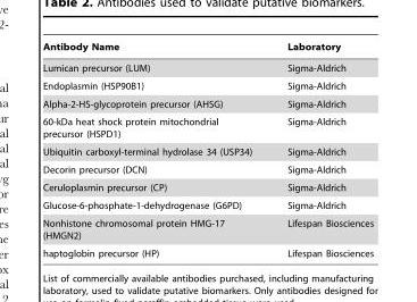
<table><thead><tr><td>Antibody Name</td><td>Laboratory</td></tr></thead><tbody><tr><td>Lumican precursor (LUM)</td><td>Sigma-Aldrich</td></tr><tr><td>Endoplasmin (HSP90B1)</td><td>Sigma-Aldrich</td></tr><tr><td>Alpha-2-HS-glycoprotein precursor (AHSG)</td><td>Sigma-Aldrich</td></tr><tr><td>60-kDa heat shock protein mitochondrial precursor (HSPD1)</td><td>Sigma-Aldrich</td></tr><tr><td>Ubiquitin carboxyl-terminal hydrolase 34 (USP34)</td><td>Sigma-Aldrich</td></tr><tr><td>Decorin precursor (DCN)</td><td>Sigma-Aldrich</td></tr><tr><td>Ceruloplasmin precursor (CP)</td><td>Sigma-Aldrich</td></tr><tr><td>Glucose-6-phosphate-1-dehydrogenase (G6PD)</td><td>Sigma-Aldrich</td></tr><tr><td>Nonhistone chromosomal protein HMG-17 (HMGN2)</td><td>Lifespan Biosciences</td></tr><tr><td>haptoglobin precursor (HP)</td><td>Lifespan Biosciences</td></tr></tbody></table>